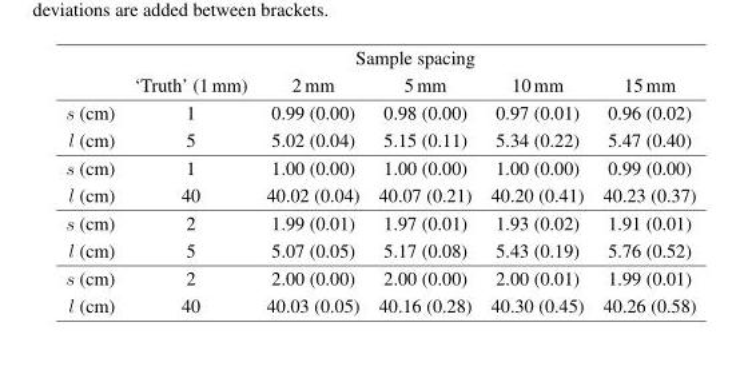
<table><thead><tr><td rowspan="2"></td><td colspan="5">Sample spacing</td></tr><tr><td>‘Truth’ (1 mm)</td><td>2 mm</td><td>5 mm</td><td>10 mm</td><td>15 mm</td></tr></thead><tbody><tr><td>s (cm)</td><td>1</td><td>0.99 (0.00)</td><td>0.98 (0.00)</td><td>0.97 (0.01)</td><td>0.96 (0.02)</td></tr><tr><td>l (cm)</td><td>5</td><td>5.02 (0.04)</td><td>5.15 (0.11)</td><td>5.34 (0.22)</td><td>5.47 (0.40)</td></tr><tr><td>s (cm)</td><td>1</td><td>1.00 (0.00)</td><td>1.00 (0.00)</td><td>1.00 (0.00)</td><td>0.99 (0.00)</td></tr><tr><td>l (cm)</td><td>40</td><td>40.02 (0.04)</td><td>40.07 (0.21)</td><td>40.20 (0.41)</td><td>40.23 (0.37)</td></tr><tr><td>s (cm)</td><td>2</td><td>1.99 (0.01)</td><td>1.97 (0.01)</td><td>1.93 (0.02)</td><td>1.91 (0.01)</td></tr><tr><td>l (cm)</td><td>5</td><td>5.07 (0.05)</td><td>5.17 (0.08)</td><td>5.43 (0.19)</td><td>5.76 (0.52)</td></tr><tr><td>s (cm)</td><td>2</td><td>2.00 (0.00)</td><td>2.00 (0.00)</td><td>2.00 (0.01)</td><td>1.99 (0.01)</td></tr><tr><td>l (cm)</td><td>40</td><td>40.03 (0.05)</td><td>40.16 (0.28)</td><td>40.30 (0.45)</td><td>40.26 (0.58)</td></tr></tbody></table>